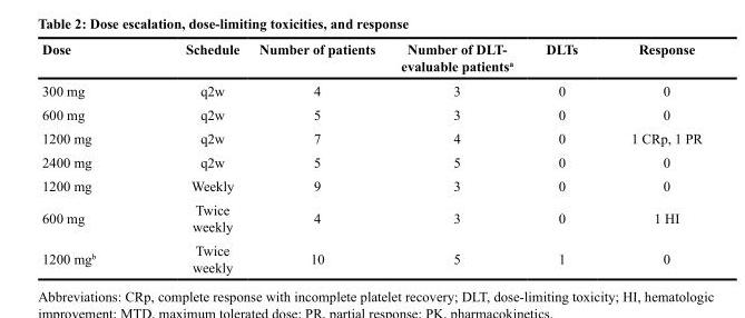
<table><thead><tr><td>Dose</td><td>Schedule</td><td>Number of patients</td><td>Number of DLT- evaluable patients<sup>a</sup></td><td>DLTs</td><td>Response</td></tr></thead><tbody><tr><td>300 mg</td><td>q2w</td><td>4</td><td>3</td><td>0</td><td>0</td></tr><tr><td>600 mg</td><td>q2w</td><td>5</td><td>3</td><td>0</td><td>0</td></tr><tr><td>1200 mg</td><td>q2w</td><td>7</td><td>4</td><td>0</td><td>1 CRp, 1 PR</td></tr><tr><td>2400 mg</td><td>q2w</td><td>5</td><td>5</td><td>0</td><td>0</td></tr><tr><td>1200 mg</td><td>Weekly</td><td>9</td><td>3</td><td>0</td><td>0</td></tr><tr><td>600 mg</td><td>Twice weekly</td><td>4</td><td>3</td><td>0</td><td>1 HI</td></tr><tr><td>1200 mg<sup>b</sup></td><td>Twice weekly</td><td>10</td><td>5</td><td>1</td><td>0</td></tr></tbody></table>